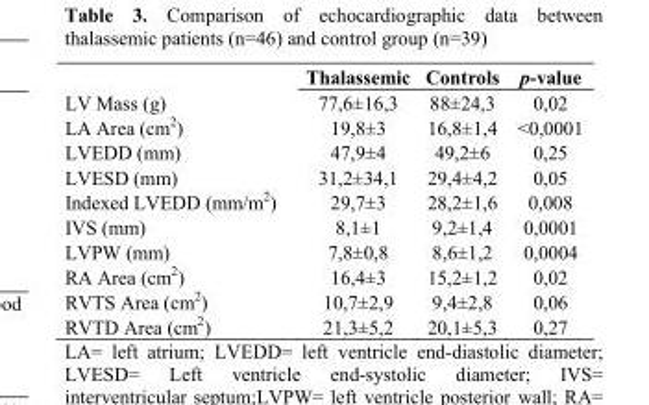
<table><thead><tr><td></td><td>Thalassemic</td><td>Controls</td><td>p-value</td></tr></thead><tbody><tr><td>LV Mass (g)</td><td>77,6±16,3</td><td>88±24,3</td><td>0,02</td></tr><tr><td>LA Area (cm<sup>2</sup>)</td><td>19,8±3</td><td>16,8±1,4</td><td>&lt;0,0001</td></tr><tr><td>LVEDD (mm)</td><td>47,9±4</td><td>49,2±6</td><td>0,25</td></tr><tr><td>LVESD (mm)</td><td>31,2±34,1</td><td>29,4±4,2</td><td>0,05</td></tr><tr><td>Indexed LVEDD (mm/m<sup>2</sup>)</td><td>29,7±3</td><td>28,2±1,6</td><td>0,008</td></tr><tr><td>IVS (mm)</td><td>8,1±1</td><td>9,2±1,4</td><td>0,0001</td></tr><tr><td>LVPW (mm)</td><td>7,8±0,8</td><td>8,6±1,2</td><td>0,0004</td></tr><tr><td>RA Area (cm<sup>2</sup>)</td><td>16,4±3</td><td>15,2±1,2</td><td>0,02</td></tr><tr><td>RVTS Area (cm<sup>2</sup>)</td><td>10,7±2,9</td><td>9,4±2,8</td><td>0,06</td></tr><tr><td>RVTD Area (cm<sup>2</sup>)</td><td>21,3±5,2</td><td>20,1±5,3</td><td>0,27</td></tr></tbody></table>